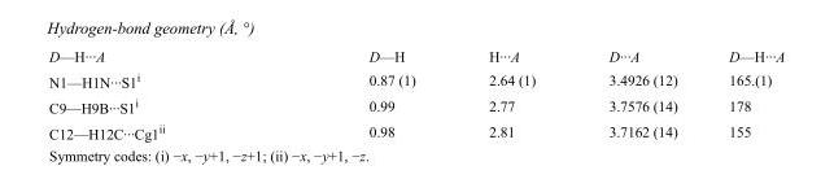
<table><tbody><tr><td>D—H···A</td><td>D—H</td><td>H···A</td><td>D···A</td><td>D—H···A</td></tr><tr><td>N1—H1N···S1<sup>i</sup></td><td>0.87 (1)</td><td>2.64 (1)</td><td>3.4926 (12)</td><td>165.(1)</td></tr><tr><td>C9—H9B···S1<sup>i</sup></td><td>0.99</td><td>2.77</td><td>3.7576 (14)</td><td>178</td></tr><tr><td>C12—H12C···Cg1<sup>ii</sup></td><td>0.98</td><td>2.81</td><td>3.7162 (14)</td><td>155</td></tr></tbody></table>